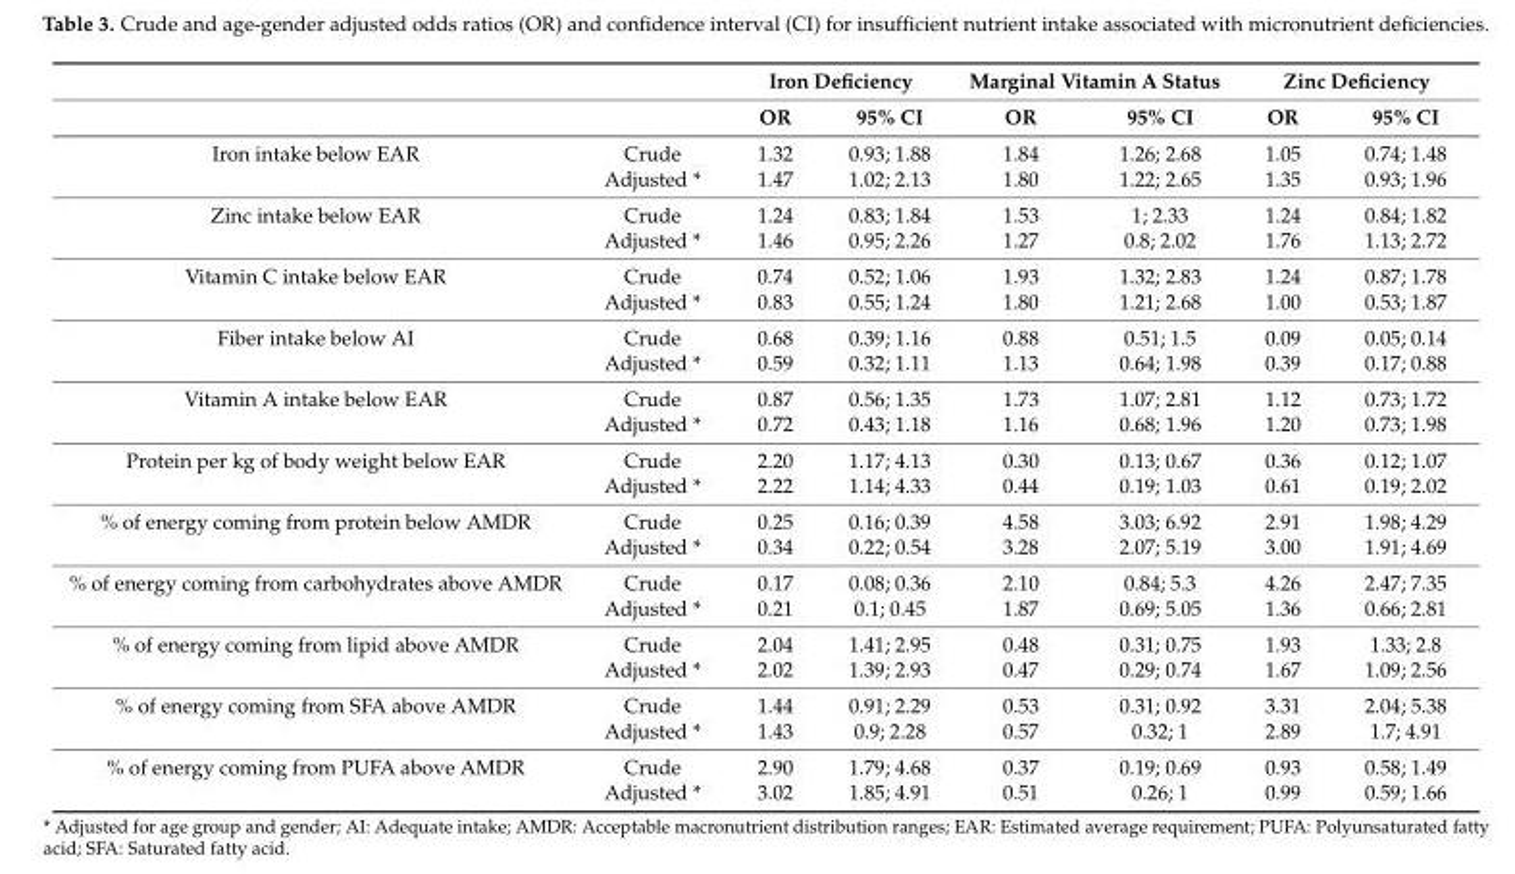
<table><thead><tr><td rowspan="2"></td><td rowspan="2"></td><td colspan="2">Iron Deficiency</td><td colspan="2">Marginal Vitamin A Status</td><td colspan="2">Zinc Deficiency</td></tr><tr><td>OR</td><td>95% CI</td><td>OR</td><td>95% CI</td><td>OR</td><td>95% CI</td></tr></thead><tbody><tr><td rowspan="2">Iron intake below EAR</td><td>Crude</td><td>1.32</td><td>0.93; 1.88</td><td>1.84</td><td>1.26; 2.68</td><td>1.05</td><td>0.74; 1.48</td></tr><tr><td>Adjusted *</td><td>1.47</td><td>1.02; 2.13</td><td>1.80</td><td>1.22; 2.65</td><td>1.35</td><td>0.93; 1.96</td></tr><tr><td rowspan="2">Zinc intake below EAR</td><td>Crude</td><td>1.24</td><td>0.83; 1.84</td><td>1.53</td><td>1; 2.33</td><td>1.24</td><td>0.84; 1.82</td></tr><tr><td>Adjusted *</td><td>1.46</td><td>0.95; 2.26</td><td>1.27</td><td>0.8; 2.02</td><td>1.76</td><td>1.13; 2.72</td></tr><tr><td rowspan="2">Vitamin C intake below EAR</td><td>Crude</td><td>0.74</td><td>0.52; 1.06</td><td>1.93</td><td>1.32; 2.83</td><td>1.24</td><td>0.87; 1.78</td></tr><tr><td>Adjusted *</td><td>0.83</td><td>0.55; 1.24</td><td>1.80</td><td>1.21; 2.68</td><td>1.00</td><td>0.53; 1.87</td></tr><tr><td rowspan="2">Fiber intake below AI</td><td>Crude</td><td>0.68</td><td>0.39; 1.16</td><td>0.88</td><td>0.51; 1.5</td><td>0.09</td><td>0.05; 0.14</td></tr><tr><td>Adjusted *</td><td>0.59</td><td>0.32; 1.11</td><td>1.13</td><td>0.64; 1.98</td><td>0.39</td><td>0.17; 0.88</td></tr><tr><td rowspan="2">Vitamin A intake below EAR</td><td>Crude</td><td>0.87</td><td>0.56; 1.35</td><td>1.73</td><td>1.07; 2.81</td><td>1.12</td><td>0.73; 1.72</td></tr><tr><td>Adjusted *</td><td>0.72</td><td>0.43; 1.18</td><td>1.16</td><td>0.68; 1.96</td><td>1.20</td><td>0.73; 1.98</td></tr><tr><td rowspan="2">Protein per kg of body weight below EAR</td><td>Crude</td><td>2.20</td><td>1.17; 4.13</td><td>0.30</td><td>0.13; 0.67</td><td>0.36</td><td>0.12; 1.07</td></tr><tr><td>Adjusted *</td><td>2.22</td><td>1.14; 4.33</td><td>0.44</td><td>0.19; 1.03</td><td>0.61</td><td>0.19; 2.02</td></tr><tr><td rowspan="2">% of energy coming from protein below AMDR</td><td>Crude</td><td>0.25</td><td>0.16; 0.39</td><td>4.58</td><td>3.03; 6.92</td><td>2.91</td><td>1.98; 4.29</td></tr><tr><td>Adjusted *</td><td>0.34</td><td>0.22; 0.54</td><td>3.28</td><td>2.07; 5.19</td><td>3.00</td><td>1.91; 4.69</td></tr><tr><td rowspan="2">% of energy coming from carbohydrates above AMDR</td><td>Crude</td><td>0.17</td><td>0.08; 0.36</td><td>2.10</td><td>0.84; 5.3</td><td>4.26</td><td>2.47; 7.35</td></tr><tr><td>Adjusted *</td><td>0.21</td><td>0.1; 0.45</td><td>1.87</td><td>0.69; 5.05</td><td>1.36</td><td>0.66; 2.81</td></tr><tr><td rowspan="2">% of energy coming from lipid above AMDR</td><td>Crude</td><td>2.04</td><td>1.41; 2.95</td><td>0.48</td><td>0.31; 0.75</td><td>1.93</td><td>1.33; 2.8</td></tr><tr><td>Adjusted *</td><td>2.02</td><td>1.39; 2.93</td><td>0.47</td><td>0.29; 0.74</td><td>1.67</td><td>1.09; 2.56</td></tr><tr><td rowspan="2">% of energy coming from SFA above AMDR</td><td>Crude</td><td>1.44</td><td>0.91; 2.29</td><td>0.53</td><td>0.31; 0.92</td><td>3.31</td><td>2.04; 5.38</td></tr><tr><td>Adjusted *</td><td>1.43</td><td>0.9; 2.28</td><td>0.57</td><td>0.32; 1</td><td>2.89</td><td>1.7; 4.91</td></tr><tr><td rowspan="2">% of energy coming from PUFA above AMDR</td><td>Crude</td><td>2.90</td><td>1.79; 4.68</td><td>0.37</td><td>0.19; 0.69</td><td>0.93</td><td>0.58; 1.49</td></tr><tr><td>Adjusted *</td><td>3.02</td><td>1.85; 4.91</td><td>0.51</td><td>0.26; 1</td><td>0.99</td><td>0.59; 1.66</td></tr></tbody></table>